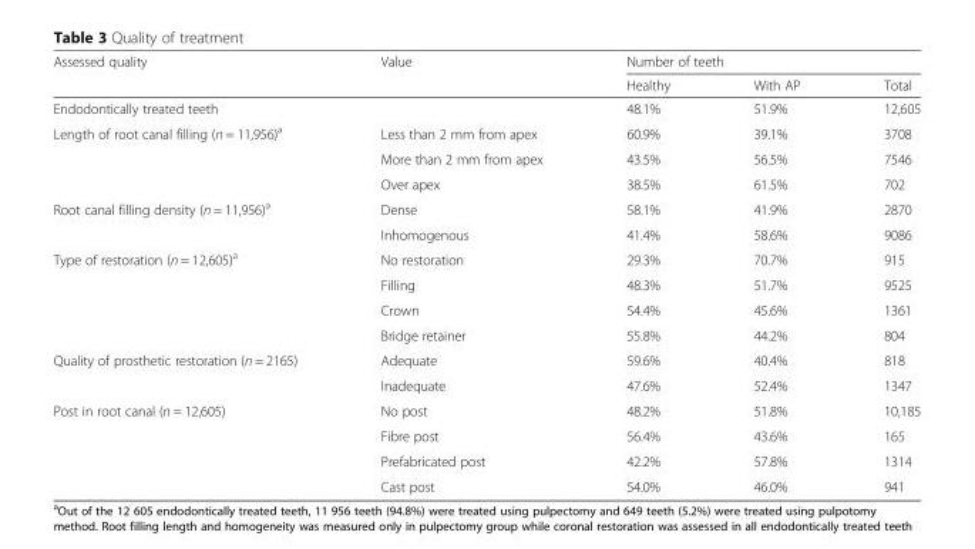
<table><thead><tr><td rowspan="2">Assessed quality</td><td rowspan="2">Value</td><td colspan="3">Number of teeth</td></tr><tr><td>Healthy</td><td>With AP</td><td>Total</td></tr></thead><tbody><tr><td colspan="2">Endodontically treated teeth</td><td>48.1%</td><td>51.9%</td><td>12,605</td></tr><tr><td rowspan="3">Length of root canal filling (n = 11,956)<sup>a</sup></td><td>Less than 2 mm from apex</td><td>60.9%</td><td>39.1%</td><td>3708</td></tr><tr><td>More than 2 mm from apex</td><td>43.5%</td><td>56.5%</td><td>7546</td></tr><tr><td>Over apex</td><td>38.5%</td><td>61.5%</td><td>702</td></tr><tr><td rowspan="2">Root canal filling density (n = 11,956)<sup>a</sup></td><td>Dense</td><td>58.1%</td><td>41.9%</td><td>2870</td></tr><tr><td>Inhomogenous</td><td>41.4%</td><td>58.6%</td><td>9086</td></tr><tr><td rowspan="4">Type of restoration (n = 12,605)<sup>a</sup></td><td>No restoration</td><td>29.3%</td><td>70.7%</td><td>915</td></tr><tr><td>Filling</td><td>48.3%</td><td>51.7%</td><td>9525</td></tr><tr><td>Crown</td><td>54.4%</td><td>45.6%</td><td>1361</td></tr><tr><td>Bridge retainer</td><td>55.8%</td><td>44.2%</td><td>804</td></tr><tr><td rowspan="2">Quality of prosthetic restoration (n = 2165)</td><td>Adequate</td><td>59.6%</td><td>40.4%</td><td>818</td></tr><tr><td>Inadequate</td><td>47.6%</td><td>52.4%</td><td>1347</td></tr><tr><td rowspan="4">Post in root canal (n = 12,605)</td><td>No post</td><td>48.2%</td><td>51.8%</td><td>10,185</td></tr><tr><td>Fibre post</td><td>56.4%</td><td>43.6%</td><td>165</td></tr><tr><td>Prefabricated post</td><td>42.2%</td><td>57.8%</td><td>1314</td></tr><tr><td>Cast post</td><td>54.0%</td><td>46.0%</td><td>941</td></tr></tbody></table>